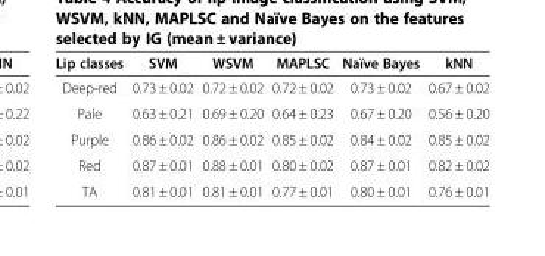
<table><thead><tr><td>Lip classes</td><td>SVM</td><td>WSVM</td><td>MAPLSC</td><td>Naïve Bayes</td><td>kNN</td></tr></thead><tbody><tr><td>Deep-red</td><td>0.73 ± 0.02</td><td>0.72 ± 0.02</td><td>0.72 ± 0.02</td><td>0.73 ± 0.02</td><td>0.67 ± 0.02</td></tr><tr><td>Pale</td><td>0.63 ± 0.21</td><td>0.69 ± 0.20</td><td>0.64 ± 0.23</td><td>0.67 ± 0.20</td><td>0.56 ± 0.20</td></tr><tr><td>Purple</td><td>0.86 ± 0.02</td><td>0.86 ± 0.02</td><td>0.85 ± 0.02</td><td>0.84 ± 0.02</td><td>0.85 ± 0.02</td></tr><tr><td>Red</td><td>0.87 ± 0.01</td><td>0.88 ± 0.01</td><td>0.80 ± 0.02</td><td>0.87 ± 0.01</td><td>0.82 ± 0.02</td></tr><tr><td>TA</td><td>0.81 ± 0.01</td><td>0.81 ± 0.01</td><td>0.77 ± 0.01</td><td>0.80 ± 0.01</td><td>0.76 ± 0.01</td></tr></tbody></table>